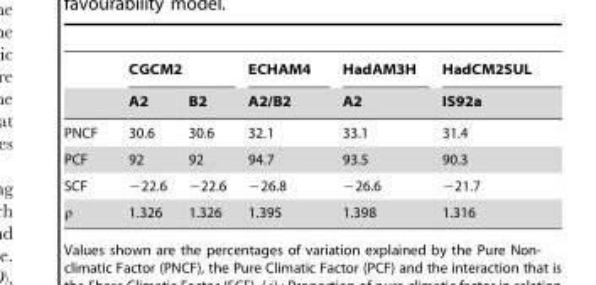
<table><thead><tr><td rowspan="2"></td><td colspan="2">CGCM2</td><td rowspan="2">ECHAM4 A2/B2</td><td rowspan="2">HadAM3H A2</td><td rowspan="2">HadCM2SUL IS92a</td></tr><tr><td>A2</td><td>B2</td></tr></thead><tbody><tr><td>PNCF</td><td>30.6</td><td>30.6</td><td>32.1</td><td>33.1</td><td>31.4</td></tr><tr><td>PCF</td><td>92</td><td>92</td><td>94.7</td><td>93.5</td><td>90.3</td></tr><tr><td>SCF</td><td>−22.6</td><td>−22.6</td><td>−26.8</td><td>−26.6</td><td>−21.7</td></tr><tr><td>ρ</td><td>1.326</td><td>1.326</td><td>1.395</td><td>1.398</td><td>1.316</td></tr></tbody></table>